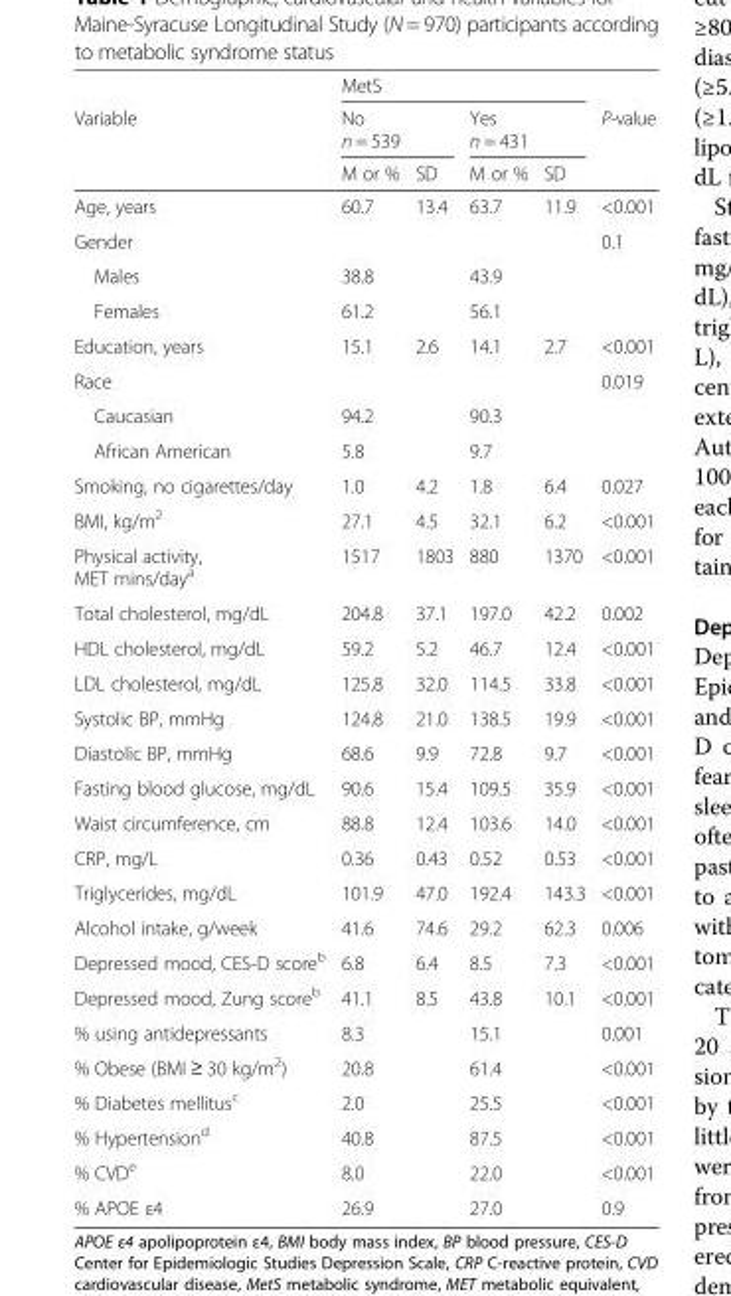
<table><thead><tr><td rowspan="4">Variable</td><td colspan="4">MetS</td><td rowspan="4">P-value</td></tr><tr><td rowspan="2" colspan="2">No n = 539</td><td rowspan="2" colspan="2">Yes n = 431</td></tr><tr></tr><tr><td>M or %</td><td>SD</td><td>M or %</td><td>SD</td></tr></thead><tbody><tr><td>Age, years</td><td>60.7</td><td>13.4</td><td>63.7</td><td>11.9</td><td>&lt;0.001</td></tr><tr><td>Gender</td><td></td><td></td><td></td><td></td><td>0.1</td></tr><tr><td>Males</td><td>38.8</td><td></td><td>43.9</td><td></td><td></td></tr><tr><td>Females</td><td>61.2</td><td></td><td>56.1</td><td></td><td></td></tr><tr><td>Education, years</td><td>15.1</td><td>2.6</td><td>14.1</td><td>2.7</td><td>&lt;0.001</td></tr><tr><td>Race</td><td></td><td></td><td></td><td></td><td>0.019</td></tr><tr><td>Caucasian</td><td>94.2</td><td></td><td>90.3</td><td></td><td></td></tr><tr><td>African American</td><td>5.8</td><td></td><td>9.7</td><td></td><td></td></tr><tr><td>Smoking, no cigarettes/day</td><td>1.0</td><td>4.2</td><td>1.8</td><td>6.4</td><td>0.027</td></tr><tr><td>BMI, kg/m<sup>2</sup></td><td>27.1</td><td>4.5</td><td>32.1</td><td>6.2</td><td>&lt;0.001</td></tr><tr><td>Physical activity, MET mins/day<sup>a</sup></td><td>1517</td><td>1803</td><td>880</td><td>1370</td><td>&lt;0.001</td></tr><tr><td>Total cholesterol, mg/dL</td><td>204.8</td><td>37.1</td><td>197.0</td><td>42.2</td><td>0.002</td></tr><tr><td>HDL cholesterol, mg/dL</td><td>59.2</td><td>5.2</td><td>46.7</td><td>12.4</td><td>&lt;0.001</td></tr><tr><td>LDL cholesterol, mg/dL</td><td>125.8</td><td>32.0</td><td>114.5</td><td>33.8</td><td>&lt;0.001</td></tr><tr><td>Systolic BP, mmHg</td><td>124.8</td><td>21.0</td><td>138.5</td><td>19.9</td><td>&lt;0.001</td></tr><tr><td>Diastolic BP, mmHg</td><td>68.6</td><td>9.9</td><td>72.8</td><td>9.7</td><td>&lt;0.001</td></tr><tr><td>Fasting blood glucose, mg/dL</td><td>90.6</td><td>15.4</td><td>109.5</td><td>35.9</td><td>&lt;0.001</td></tr><tr><td>Waist circumference, cm</td><td>88.8</td><td>12.4</td><td>103.6</td><td>14.0</td><td>&lt;0.001</td></tr><tr><td>CRP, mg/L</td><td>0.36</td><td>0.43</td><td>0.52</td><td>0.53</td><td>&lt;0.001</td></tr><tr><td>Triglycerides, mg/dL</td><td>101.9</td><td>47.0</td><td>192.4</td><td>143.3</td><td>&lt;0.001</td></tr><tr><td>Alcohol intake, g/week</td><td>41.6</td><td>74.6</td><td>29.2</td><td>62.3</td><td>0.006</td></tr><tr><td>Depressed mood, CES-D score<sup>b</sup></td><td>6.8</td><td>6.4</td><td>8.5</td><td>7.3</td><td>&lt;0.001</td></tr><tr><td>Depressed mood, Zung score<sup>b</sup></td><td>41.1</td><td>8.5</td><td>43.8</td><td>10.1</td><td>&lt;0.001</td></tr><tr><td>% using antidepressants</td><td>8.3</td><td></td><td>15.1</td><td></td><td>0.001</td></tr><tr><td>% Obese (BMI ≥ 30 kg/m<sup>2</sup>)</td><td>20.8</td><td></td><td>61.4</td><td></td><td>&lt;0.001</td></tr><tr><td>% Diabetes mellitus<sup>c</sup></td><td>2.0</td><td></td><td>25.5</td><td></td><td>&lt;0.001</td></tr><tr><td>% Hypertension<sup>d</sup></td><td>40.8</td><td></td><td>87.5</td><td></td><td>&lt;0.001</td></tr><tr><td>% CVD<sup>e</sup></td><td>8.0</td><td></td><td>22.0</td><td></td><td>&lt;0.001</td></tr><tr><td>% APOE ε4</td><td>26.9</td><td></td><td>27.0</td><td></td><td>0.9</td></tr></tbody></table>